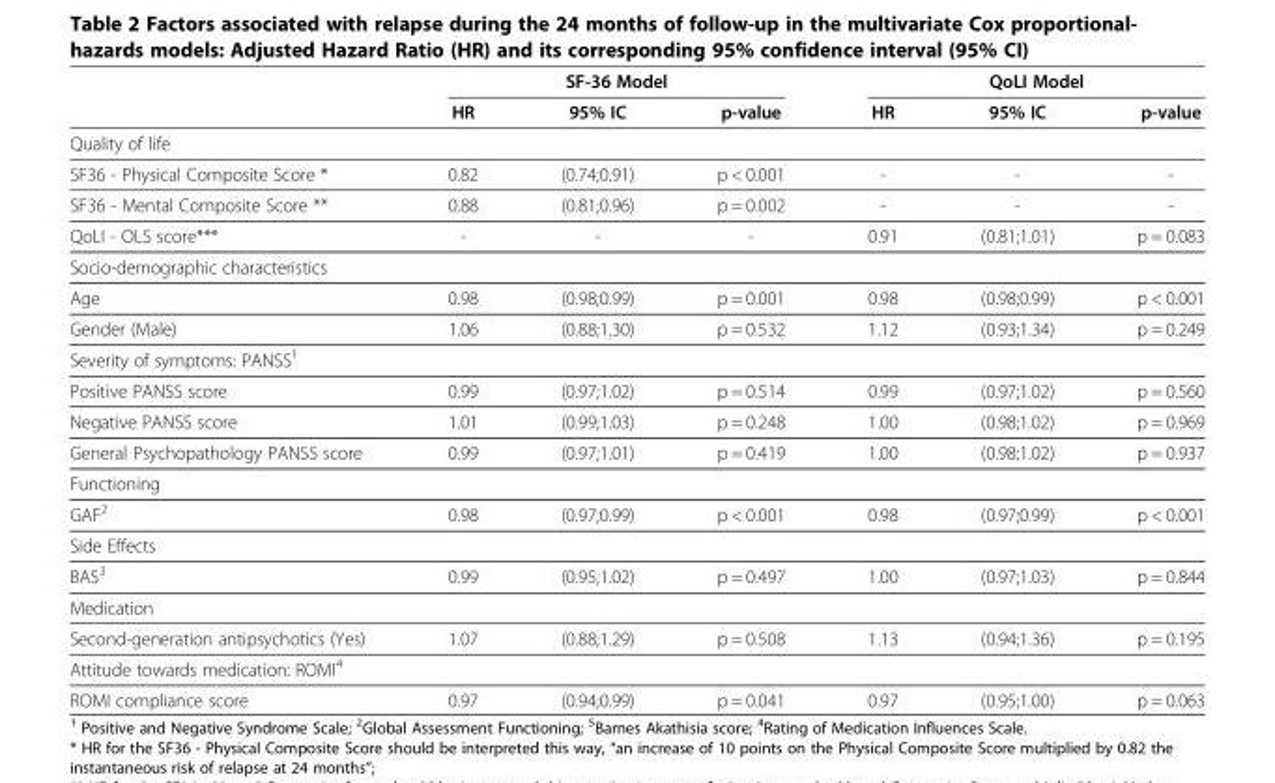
<table><thead><tr><td rowspan="2"></td><td colspan="3">SF-36 Model</td><td colspan="3">QoLI Model</td></tr><tr><td>HR</td><td>95% IC</td><td>p-value</td><td>HR</td><td>95% IC</td><td>p-value</td></tr></thead><tbody><tr><td colspan="7">Quality of life</td></tr><tr><td>SF36 - Physical Composite Score *</td><td>0.82</td><td>(0.74;0.91)</td><td>p &lt; 0.001</td><td>-</td><td>-</td><td>-</td></tr><tr><td>SF36 - Mental Composite Score **</td><td>0.88</td><td>(0.81;0.96)</td><td>p = 0.002</td><td>-</td><td>-</td><td>-</td></tr><tr><td>QoLI - OLS score***</td><td>-</td><td>-</td><td>-</td><td>0.91</td><td>(0.81;1.01)</td><td>p = 0.083</td></tr><tr><td colspan="7">Socio-demographic characteristics</td></tr><tr><td>Age</td><td>0.98</td><td>(0.98;0.99)</td><td>p = 0.001</td><td>0.98</td><td>(0.98;0.99)</td><td>p &lt; 0.001</td></tr><tr><td>Gender (Male)</td><td>1.06</td><td>(0.88;1.30)</td><td>p = 0.532</td><td>1.12</td><td>(0.93;1.34)</td><td>p = 0.249</td></tr><tr><td colspan="7">Severity of symptoms: PANSS<sup>1</sup></td></tr><tr><td>Positive PANSS score</td><td>0.99</td><td>(0.97;1.02)</td><td>p = 0.514</td><td>0.99</td><td>(0.97;1.02)</td><td>p = 0.560</td></tr><tr><td>Negative PANSS score</td><td>1.01</td><td>(0.99;1.03)</td><td>p = 0.248</td><td>1.00</td><td>(0.98;1.02)</td><td>p = 0.969</td></tr><tr><td>General Psychopathology PANSS score</td><td>0.99</td><td>(0.97;1.01)</td><td>p = 0.419</td><td>1.00</td><td>(0.98;1.02)</td><td>p = 0.937</td></tr><tr><td colspan="7">Functioning</td></tr><tr><td>GAF<sup>2</sup></td><td>0.98</td><td>(0.97;0.99)</td><td>p &lt; 0.001</td><td>0.98</td><td>(0.97;0.99)</td><td>p &lt; 0.001</td></tr><tr><td colspan="7">Side Effects</td></tr><tr><td>BAS<sup>3</sup></td><td>0.99</td><td>(0.95;1.02)</td><td>p = 0.497</td><td>1.00</td><td>(0.97;1.03)</td><td>p = 0.844</td></tr><tr><td colspan="7">Medication</td></tr><tr><td>Second-generation antipsychotics (Yes)</td><td>1.07</td><td>(0.88;1.29)</td><td>p = 0.508</td><td>1.13</td><td>(0.94;1.36)</td><td>p = 0.195</td></tr><tr><td colspan="7">Attitude towards medication: ROMI<sup>4</sup></td></tr><tr><td>ROMI compliance score</td><td>0.97</td><td>(0.94;0.99)</td><td>p = 0.041</td><td>0.97</td><td>(0.95;1.00)</td><td>p = 0.063</td></tr></tbody></table>